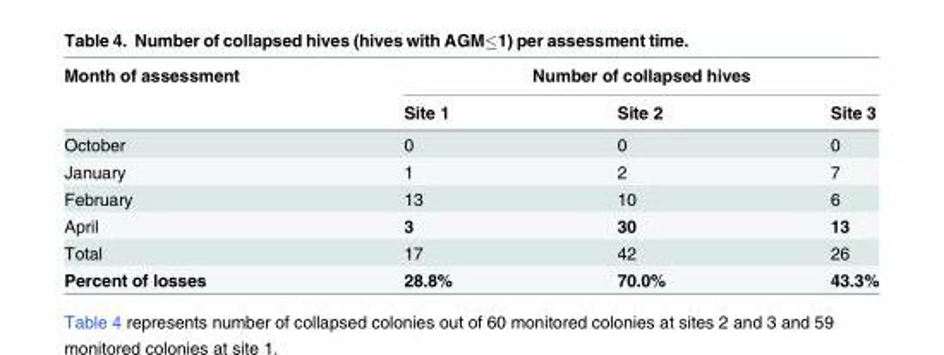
<table><thead><tr><td rowspan="2">Month of assessment</td><td colspan="3">Number of collapsed hives</td></tr><tr><td>Site 1</td><td>Site 2</td><td>Site 3</td></tr></thead><tbody><tr><td>October</td><td>0</td><td>0</td><td>0</td></tr><tr><td>January</td><td>1</td><td>2</td><td>7</td></tr><tr><td>February</td><td>13</td><td>10</td><td>6</td></tr><tr><td>April</td><td>3</td><td>30</td><td>13</td></tr><tr><td>Total</td><td>17</td><td>42</td><td>26</td></tr><tr><td>Percent of losses</td><td>28.8%</td><td>70.0%</td><td>43.3%</td></tr></tbody></table>